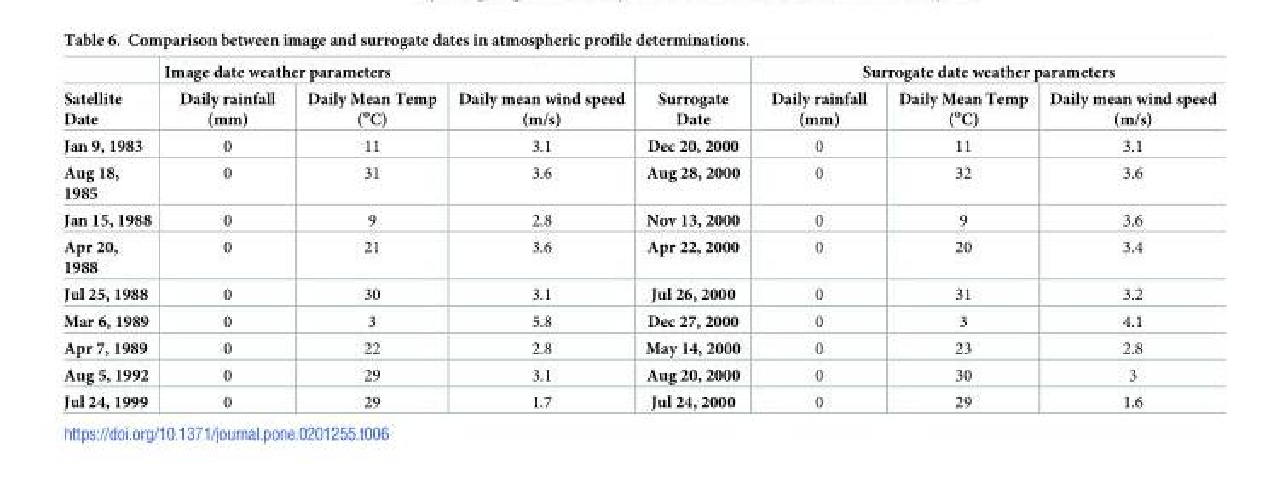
<table><thead><tr><td rowspan="2">Satellite Date</td><td colspan="3">Image date weather parameters</td><td rowspan="2">Surrogate Date</td><td colspan="3">Surrogate date weather parameters</td></tr><tr><td>Daily rainfall (mm)</td><td>Daily Mean Temp (<sup>o</sup>C)</td><td>Daily mean wind speed (m/s)</td><td>Daily rainfall (mm)</td><td>Daily Mean Temp (<sup>o</sup>C)</td><td>Daily mean wind speed (m/s)</td></tr></thead><tbody><tr><td>Jan 9, 1983</td><td>0</td><td>11</td><td>3.1</td><td>Dec 20, 2000</td><td>0</td><td>11</td><td>3.1</td></tr><tr><td>Aug 18, 1985</td><td>0</td><td>31</td><td>3.6</td><td>Aug 28, 2000</td><td>0</td><td>32</td><td>3.6</td></tr><tr><td>Jan 15, 1988</td><td>0</td><td>9</td><td>2.8</td><td>Nov 13, 2000</td><td>0</td><td>9</td><td>3.6</td></tr><tr><td>Apr 20, 1988</td><td>0</td><td>21</td><td>3.6</td><td>Apr 22, 2000</td><td>0</td><td>20</td><td>3.4</td></tr><tr><td>Jul 25, 1988</td><td>0</td><td>30</td><td>3.1</td><td>Jul 26, 2000</td><td>0</td><td>31</td><td>3.2</td></tr><tr><td>Mar 6, 1989</td><td>0</td><td>3</td><td>5.8</td><td>Dec 27, 2000</td><td>0</td><td>3</td><td>4.1</td></tr><tr><td>Apr 7, 1989</td><td>0</td><td>22</td><td>2.8</td><td>May 14, 2000</td><td>0</td><td>23</td><td>2.8</td></tr><tr><td>Aug 5, 1992</td><td>0</td><td>29</td><td>3.1</td><td>Aug 20, 2000</td><td>0</td><td>30</td><td>3</td></tr><tr><td>Jul 24, 1999</td><td>0</td><td>29</td><td>1.7</td><td>Jul 24, 2000</td><td>0</td><td>29</td><td>1.6</td></tr></tbody></table>